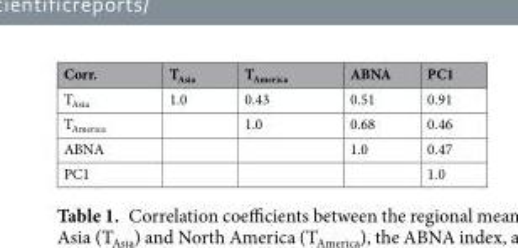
<table><thead><tr><td>Corr.</td><td>T<sub>Asia</sub></td><td>T<sub>America</sub></td><td>ABNA</td><td>PC1</td></tr></thead><tbody><tr><td>T<sub>Asia</sub></td><td>1.0</td><td>0.43</td><td>0.51</td><td>0.91</td></tr><tr><td>T<sub>America</sub></td><td></td><td>1.0</td><td>0.68</td><td>0.46</td></tr><tr><td>ABNA</td><td></td><td></td><td>1.0</td><td>0.47</td></tr><tr><td>PC1</td><td></td><td></td><td></td><td>1.0</td></tr></tbody></table>